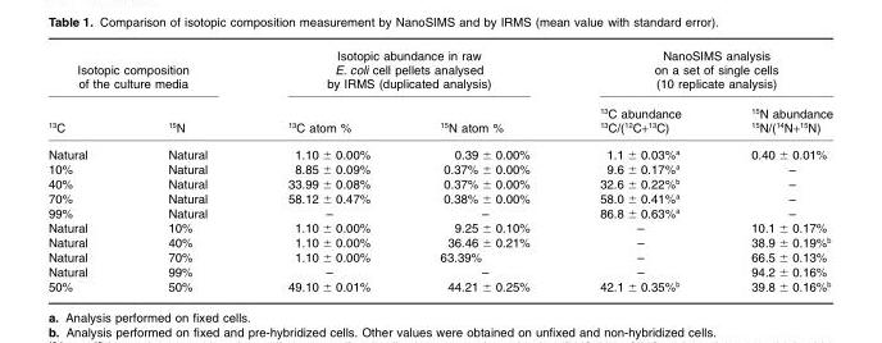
<table><thead><tr><td colspan="2">Isotopic composition of the culture media</td><td colspan="2">Isotopic abundance in raw E. coli cell pellets analysed by IRMS (duplicated analysis)</td><td colspan="2">NanoSIMS analysis on a set of single cells (10 replicate analysis)</td></tr><tr><td><sup>13</sup>C</td><td><sup>15</sup>N</td><td><sup>13</sup>C atom %</td><td><sup>15</sup>N atom %</td><td><sup>13</sup>C abundance <sup>13</sup>C/(<sup>12</sup>C+<sup>13</sup>C)</td><td><sup>15</sup>N abundance <sup>15</sup>N/(<sup>14</sup>N+<sup>15</sup>N)</td></tr></thead><tbody><tr><td>Natural</td><td>Natural</td><td>1.10 ± 0.00%</td><td>0.39 ± 0.00%</td><td>1.1 ± 0.03%<sup>a</sup></td><td>0.40 ± 0.01%</td></tr><tr><td>10%</td><td>Natural</td><td>8.85 ± 0.09%</td><td>0.37% ± 0.00%</td><td>9.6 ± 0.17%<sup>a</sup></td><td>–</td></tr><tr><td>40%</td><td>Natural</td><td>33.99 ± 0.08%</td><td>0.37% ± 0.00%</td><td>32.6 ± 0.22%<sup>b</sup></td><td>–</td></tr><tr><td>70%</td><td>Natural</td><td>58.12 ± 0.47%</td><td>0.38% ± 0.00%</td><td>58.0 ± 0.41%<sup>a</sup></td><td>–</td></tr><tr><td>99%</td><td>Natural</td><td>–</td><td>–</td><td>86.8 ± 0.63%<sup>a</sup></td><td>–</td></tr><tr><td>Natural</td><td>10%</td><td>1.10 ± 0.00%</td><td>9.25 ± 0.10%</td><td>–</td><td>10.1 ± 0.17%</td></tr><tr><td>Natural</td><td>40%</td><td>1.10 ± 0.00%</td><td>36.46 ± 0.21%</td><td>–</td><td>38.9 ± 0.19%<sup>b</sup></td></tr><tr><td>Natural</td><td>70%</td><td>1.10 ± 0.00%</td><td>63.39%</td><td>–</td><td>66.5 ± 0.13%</td></tr><tr><td>Natural</td><td>99%</td><td>–</td><td>–</td><td>–</td><td>94.2 ± 0.16%</td></tr><tr><td>50%</td><td>50%</td><td>49.10 ± 0.01%</td><td>44.21 ± 0.25%</td><td>42.1 ± 0.35%<sup>b</sup></td><td>39.8 ± 0.16%<sup>b</sup></td></tr></tbody></table>